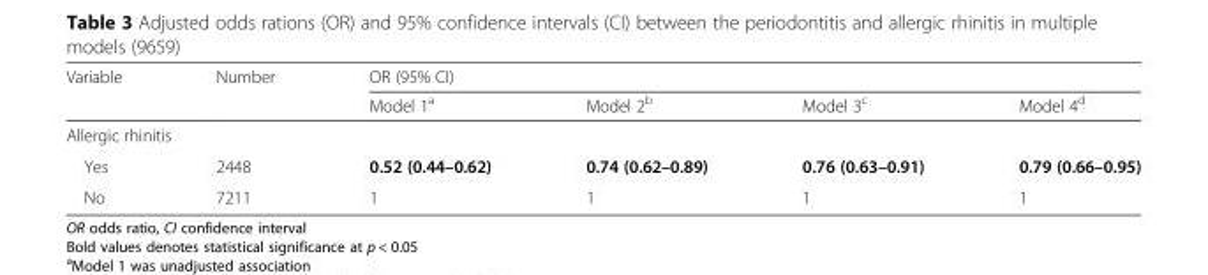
<table><thead><tr><td rowspan="2">Variable</td><td rowspan="2">Number</td><td colspan="4">OR (95% CI)</td></tr><tr><td>Model 1<sup>a</sup></td><td>Model 2<sup>b</sup></td><td>Model 3<sup>c</sup></td><td>Model 4<sup>d</sup></td></tr></thead><tbody><tr><td colspan="6">Allergic rhinitis</td></tr><tr><td>Yes</td><td>2448</td><td>0.52 (0.44–0.62)</td><td>0.74 (0.62–0.89)</td><td>0.76 (0.63–0.91)</td><td>0.79 (0.66–0.95)</td></tr><tr><td>No</td><td>7211</td><td>1</td><td>1</td><td>1</td><td>1</td></tr></tbody></table>